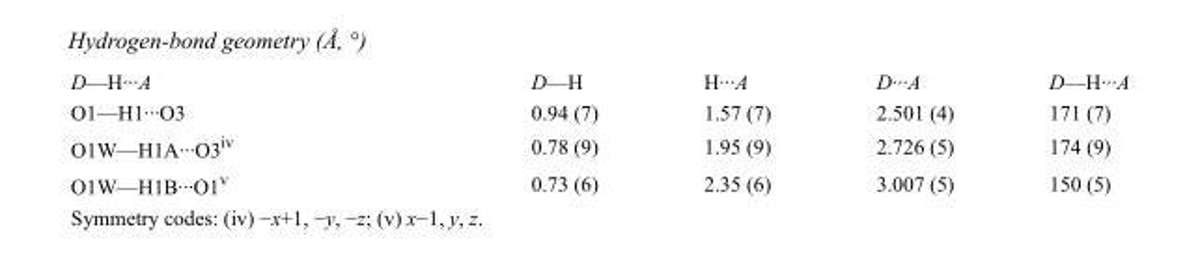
<table><tbody><tr><td>D—H···A</td><td>D—H</td><td>H···A</td><td>D···A</td><td>D—H···A</td></tr><tr><td>O1—H1···O3</td><td>0.94 (7)</td><td>1.57 (7)</td><td>2.501 (4)</td><td>171 (7)</td></tr><tr><td>O1W—H1A···O3<sup>iv</sup></td><td>0.78 (9)</td><td>1.95 (9)</td><td>2.726 (5)</td><td>174 (9)</td></tr><tr><td>O1W—H1B···O1<sup>v</sup></td><td>0.73 (6)</td><td>2.35 (6)</td><td>3.007 (5)</td><td>150 (5)</td></tr></tbody></table>